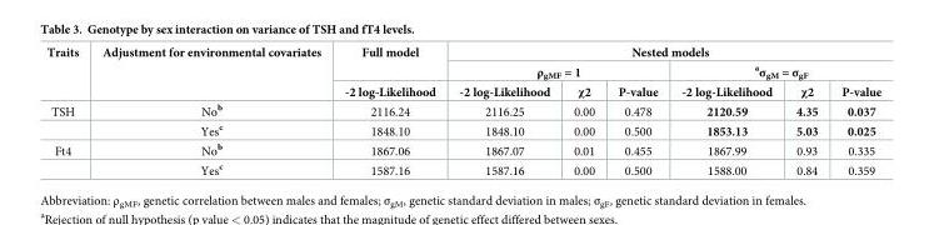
<table><thead><tr><td rowspan="3">Traits</td><td rowspan="3">Adjustment for environmental covariates</td><td rowspan="3">Full model -2 log-Likelihood</td><td colspan="6">Nested models</td></tr><tr><td colspan="3">ρ<sub>gMF</sub> = 1</td><td colspan="3"><sup>a</sup>σ<sub>gM</sub> = σ<sub>gF</sub></td></tr><tr><td>-2 log-Likelihood</td><td>χ2</td><td>P-value</td><td>-2 log-Likelihood</td><td>χ2</td><td>P-value</td></tr></thead><tbody><tr><td rowspan="2">TSH</td><td>No<sup>b</sup></td><td>2116.24</td><td>2116.25</td><td>0.00</td><td>0.478</td><td>2120.59</td><td>4.35</td><td>0.037</td></tr><tr><td>Yes<sup>c</sup></td><td>1848.10</td><td>1848.10</td><td>0.00</td><td>0.500</td><td>1853.13</td><td>5.03</td><td>0.025</td></tr><tr><td rowspan="2">Ft4</td><td>No<sup>b</sup></td><td>1867.06</td><td>1867.07</td><td>0.01</td><td>0.455</td><td>1867.99</td><td>0.93</td><td>0.335</td></tr><tr><td>Yes<sup>c</sup></td><td>1587.16</td><td>1587.16</td><td>0.00</td><td>0.500</td><td>1588.00</td><td>0.84</td><td>0.359</td></tr></tbody></table>